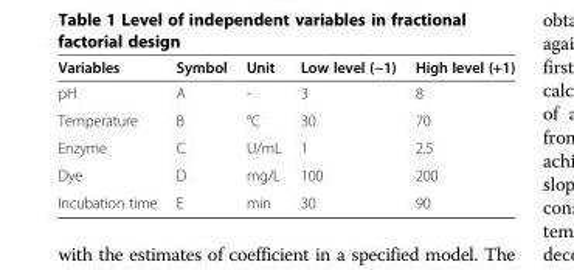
<table><thead><tr><td>Variables</td><td>Symbol</td><td>Unit</td><td>Low level (−1)</td><td>High level (+1)</td></tr></thead><tbody><tr><td>pH</td><td>A</td><td>-</td><td>3</td><td>8</td></tr><tr><td>Temperature</td><td>B</td><td>°C</td><td>30</td><td>70</td></tr><tr><td>Enzyme</td><td>C</td><td>U/mL</td><td>1</td><td>2.5</td></tr><tr><td>Dye</td><td>D</td><td>mg/L</td><td>100</td><td>200</td></tr><tr><td>Incubation time</td><td>E</td><td>min</td><td>30</td><td>90</td></tr></tbody></table>